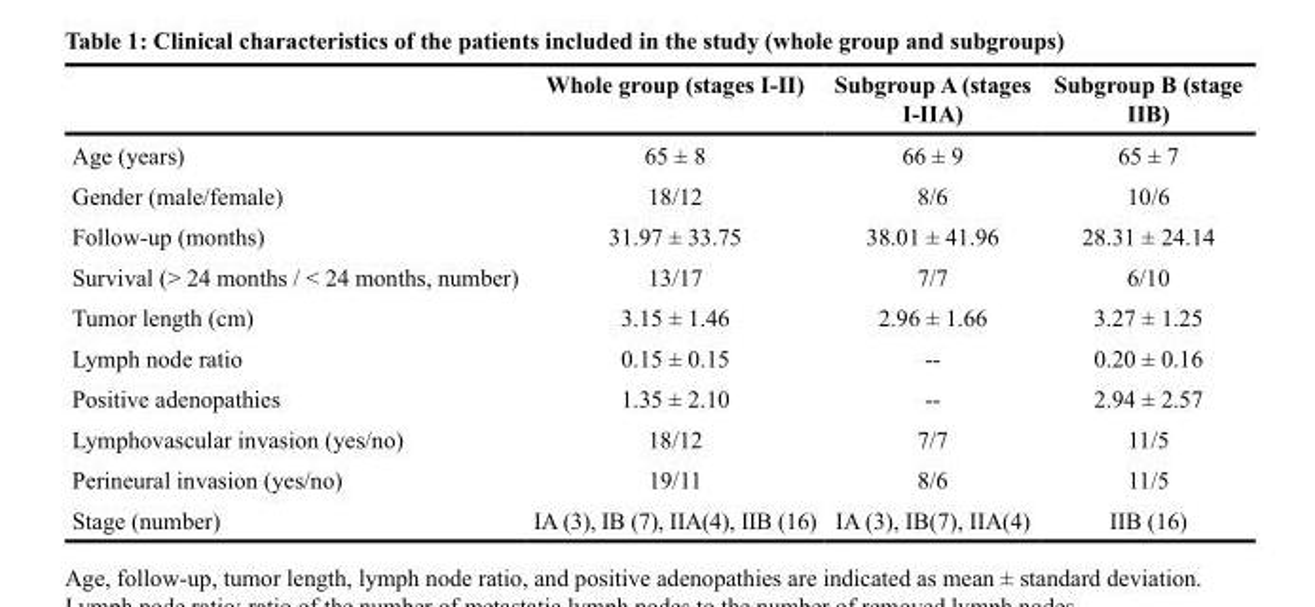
<table><thead><tr><td></td><td>Whole group (stages I-II)</td><td>Subgroup A (stages I-IIA)</td><td>Subgroup B (stage IIB)</td></tr></thead><tbody><tr><td>Age (years)</td><td>65 ± 8</td><td>66 ± 9</td><td>65 ± 7</td></tr><tr><td>Gender (male/female)</td><td>18/12</td><td>8/6</td><td>10/6</td></tr><tr><td>Follow-up (months)</td><td>31.97 ± 33.75</td><td>38.01 ± 41.96</td><td>28.31 ± 24.14</td></tr><tr><td>Survival (&gt; 24 months / &lt; 24 months, number)</td><td>13/17</td><td>7/7</td><td>6/10</td></tr><tr><td>Tumor length (cm)</td><td>3.15 ± 1.46</td><td>2.96 ± 1.66</td><td>3.27 ± 1.25</td></tr><tr><td>Lymph node ratio</td><td>0.15 ± 0.15</td><td>--</td><td>0.20 ± 0.16</td></tr><tr><td>Positive adenopathies</td><td>1.35 ± 2.10</td><td>--</td><td>2.94 ± 2.57</td></tr><tr><td>Lymphovascular invasion (yes/no)</td><td>18/12</td><td>7/7</td><td>11/5</td></tr><tr><td>Perineural invasion (yes/no)</td><td>19/11</td><td>8/6</td><td>11/5</td></tr><tr><td>Stage (number)</td><td>IA (3), IB (7), IIA(4), IIB (16)</td><td>IA (3), IB(7), IIA(4)</td><td>IIB (16)</td></tr></tbody></table>